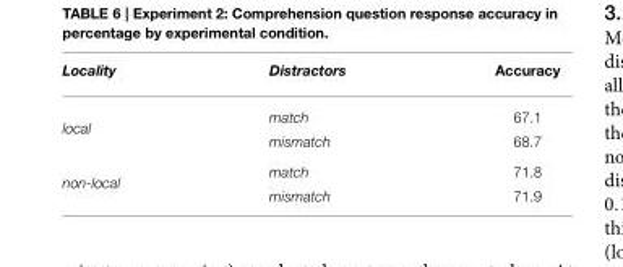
<table><thead><tr><td>Locality</td><td>Distractors</td><td>Accuracy</td></tr></thead><tbody><tr><td rowspan="2">local</td><td>match</td><td>67.1</td></tr><tr><td>mismatch</td><td>68.7</td></tr><tr><td rowspan="2">non-local</td><td>match</td><td>71.8</td></tr><tr><td>mismatch</td><td>71.9</td></tr></tbody></table>